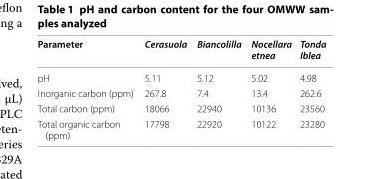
<table><thead><tr><td>Parameter</td><td>Cerasuola</td><td>Biancolilla</td><td>Nocellara etnea</td><td>Tonda Iblea</td></tr></thead><tbody><tr><td>pH</td><td>5.11</td><td>5.12</td><td>5.02</td><td>4.98</td></tr><tr><td>Inorganic carbon (ppm)</td><td>267.8</td><td>7.4</td><td>13.4</td><td>262.6</td></tr><tr><td>Total carbon (ppm)</td><td>18066</td><td>22940</td><td>10136</td><td>23560</td></tr><tr><td>Total organic carbon (ppm)</td><td>17798</td><td>22920</td><td>10122</td><td>23280</td></tr></tbody></table>